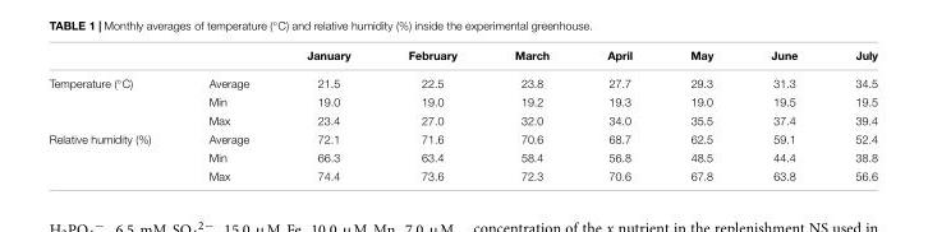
<table><thead><tr><td></td><td></td><td>January</td><td>February</td><td>March</td><td>April</td><td>May</td><td>June</td><td>July</td></tr></thead><tbody><tr><td rowspan="3">Temperature (◦C)</td><td>Average</td><td>21.5</td><td>22.5</td><td>23.8</td><td>27.7</td><td>29.3</td><td>31.3</td><td>34.5</td></tr><tr><td>Min</td><td>19.0</td><td>19.0</td><td>19.2</td><td>19.3</td><td>19.0</td><td>19.5</td><td>19.5</td></tr><tr><td>Max</td><td>23.4</td><td>27.0</td><td>32.0</td><td>34.0</td><td>35.5</td><td>37.4</td><td>39.4</td></tr><tr><td rowspan="3">Relative humidity (%)</td><td>Average</td><td>72.1</td><td>71.6</td><td>70.6</td><td>68.7</td><td>62.5</td><td>59.1</td><td>52.4</td></tr><tr><td>Min</td><td>66.3</td><td>63.4</td><td>58.4</td><td>56.8</td><td>48.5</td><td>44.4</td><td>38.8</td></tr><tr><td>Max</td><td>74.4</td><td>73.6</td><td>72.3</td><td>70.6</td><td>67.8</td><td>63.8</td><td>56.6</td></tr></tbody></table>